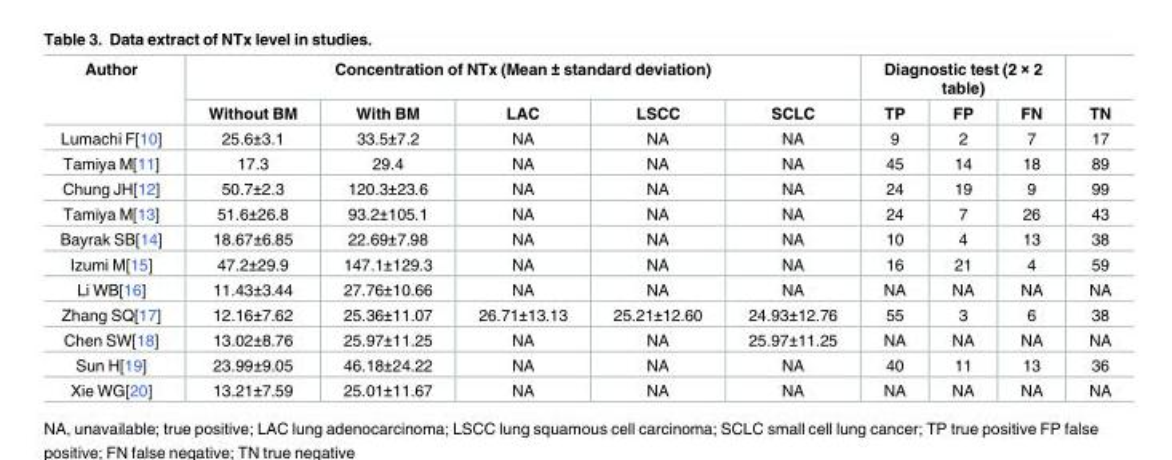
<table><thead><tr><td rowspan="2">Author</td><td colspan="5">Concentration of NTx (Mean ± standard deviation)</td><td colspan="3">Diagnostic test (2 × 2 table)</td><td rowspan="2">TN</td></tr><tr><td>Without BM</td><td>With BM</td><td>LAC</td><td>LSCC</td><td>SCLC</td><td>TP</td><td>FP</td><td>FN</td></tr></thead><tbody><tr><td>Lumachi F[10]</td><td>25.6±3.1</td><td>33.5±7.2</td><td>NA</td><td>NA</td><td>NA</td><td>9</td><td>2</td><td>7</td><td>17</td></tr><tr><td>Tamiya M[11]</td><td>17.3</td><td>29.4</td><td>NA</td><td>NA</td><td>NA</td><td>45</td><td>14</td><td>18</td><td>89</td></tr><tr><td>Chung JH[12]</td><td>50.7±2.3</td><td>120.3±23.6</td><td>NA</td><td>NA</td><td>NA</td><td>24</td><td>19</td><td>9</td><td>99</td></tr><tr><td>Tamiya M[13]</td><td>51.6±26.8</td><td>93.2±105.1</td><td>NA</td><td>NA</td><td>NA</td><td>24</td><td>7</td><td>26</td><td>43</td></tr><tr><td>Bayrak SB[14]</td><td>18.67±6.85</td><td>22.69±7.98</td><td>NA</td><td>NA</td><td>NA</td><td>10</td><td>4</td><td>13</td><td>38</td></tr><tr><td>Izumi M[15]</td><td>47.2±29.9</td><td>147.1±129.3</td><td>NA</td><td>NA</td><td>NA</td><td>16</td><td>21</td><td>4</td><td>59</td></tr><tr><td>Li WB[16]</td><td>11.43±3.44</td><td>27.76±10.66</td><td>NA</td><td>NA</td><td>NA</td><td>NA</td><td>NA</td><td>NA</td><td>NA</td></tr><tr><td>Zhang SQ[17]</td><td>12.16±7.62</td><td>25.36±11.07</td><td>26.71±13.13</td><td>25.21±12.60</td><td>24.93±12.76</td><td>55</td><td>3</td><td>6</td><td>38</td></tr><tr><td>Chen SW[18]</td><td>13.02±8.76</td><td>25.97±11.25</td><td>NA</td><td>NA</td><td>25.97±11.25</td><td>NA</td><td>NA</td><td>NA</td><td>NA</td></tr><tr><td>Sun H[19]</td><td>23.99±9.05</td><td>46.18±24.22</td><td>NA</td><td>NA</td><td>NA</td><td>40</td><td>11</td><td>13</td><td>36</td></tr><tr><td>Xie WG[20]</td><td>13.21±7.59</td><td>25.01±11.67</td><td>NA</td><td>NA</td><td>NA</td><td>NA</td><td>NA</td><td>NA</td><td>NA</td></tr></tbody></table>